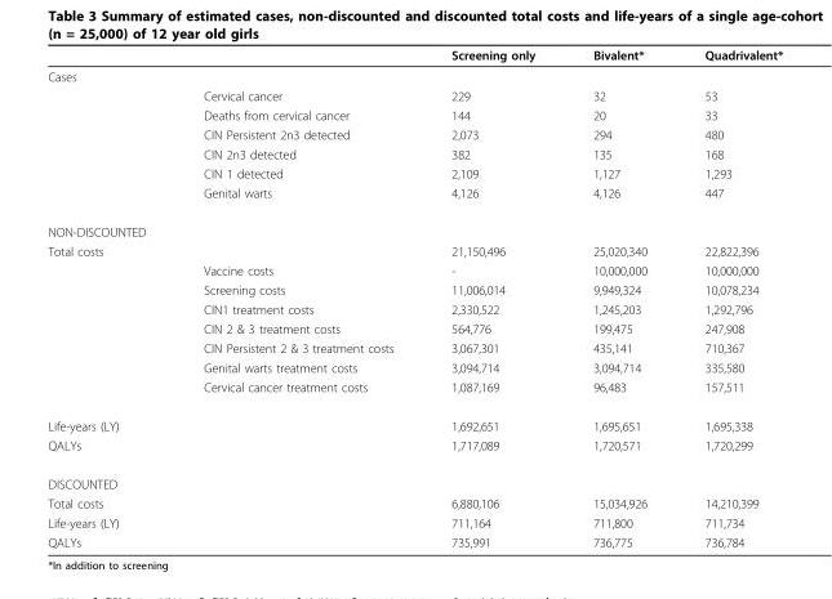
<table><thead><tr><td></td><td></td><td>Screening only</td><td>Bivalent*</td><td>Quadrivalent*</td></tr></thead><tbody><tr><td colspan="5">Cases</td></tr><tr><td></td><td>Cervical cancer</td><td>229</td><td>32</td><td>53</td></tr><tr><td></td><td>Deaths from cervical cancer</td><td>144</td><td>20</td><td>33</td></tr><tr><td></td><td>CIN Persistent 2n3 detected</td><td>2,073</td><td>294</td><td>480</td></tr><tr><td></td><td>CIN 2n3 detected</td><td>382</td><td>135</td><td>168</td></tr><tr><td></td><td>CIN 1 detected</td><td>2,109</td><td>1,127</td><td>1,293</td></tr><tr><td></td><td>Genital warts</td><td>4,126</td><td>4,126</td><td>447</td></tr><tr><td colspan="5">NON-DISCOUNTED</td></tr><tr><td rowspan="8">Total costs</td><td></td><td>21,150,496</td><td>25,020,340</td><td>22,822,396</td></tr><tr><td>Vaccine costs</td><td>-</td><td>10,000,000</td><td>10,000,000</td></tr><tr><td>Screening costs</td><td>11,006,014</td><td>9,949,324</td><td>10,078,234</td></tr><tr><td>CIN1 treatment costs</td><td>2,330,522</td><td>1,245,203</td><td>1,292,796</td></tr><tr><td>CIN 2 &amp; 3 treatment costs</td><td>564,776</td><td>199,475</td><td>247,908</td></tr><tr><td>CIN Persistent 2 &amp; 3 treatment costs</td><td>3,067,301</td><td>435,141</td><td>710,367</td></tr><tr><td>Genital warts treatment costs</td><td>3,094,714</td><td>3,094,714</td><td>335,580</td></tr><tr><td>Cervical cancer treatment costs</td><td>1,087,169</td><td>96,483</td><td>157,511</td></tr><tr><td>Life-years (LY)</td><td></td><td>1,692,651</td><td>1,695,651</td><td>1,695,338</td></tr><tr><td>QALYs</td><td></td><td>1,717,089</td><td>1,720,571</td><td>1,720,299</td></tr><tr><td colspan="5">DISCOUNTED</td></tr><tr><td>Total costs</td><td></td><td>6,880,106</td><td>15,034,926</td><td>14,210,399</td></tr><tr><td>Life-years (LY)</td><td></td><td>711,164</td><td>711,800</td><td>711,734</td></tr><tr><td>QALYs</td><td></td><td>735,991</td><td>736,775</td><td>736,784</td></tr></tbody></table>